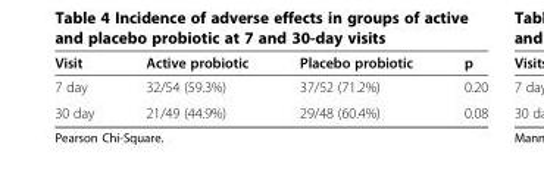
<table><thead><tr><td>Visit</td><td>Active probiotic</td><td>Placebo probiotic</td><td>p</td></tr></thead><tbody><tr><td>7 day</td><td>32/54 (59.3%)</td><td>37/52 (71.2%)</td><td>0.20</td></tr><tr><td>30 day</td><td>21/49 (44.9%)</td><td>29/48 (60.4%)</td><td>0.08</td></tr></tbody></table>